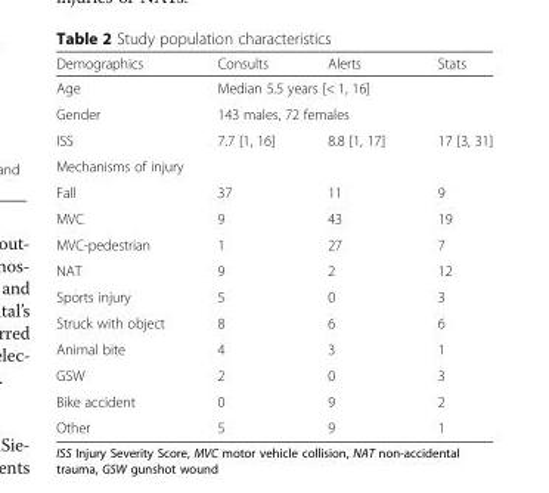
<table><thead><tr><td>Demographics</td><td>Consults</td><td>Alerts</td><td>Stats</td></tr></thead><tbody><tr><td>Age</td><td colspan="3">Median 5.5 years [&lt; 1, 16]</td></tr><tr><td>Gender</td><td colspan="3">143 males, 72 females</td></tr><tr><td>ISS</td><td>7.7 [1, 16]</td><td>8.8 [1, 17]</td><td>17 [3, 31]</td></tr><tr><td colspan="4">Mechanisms of injury</td></tr><tr><td>Fall</td><td>37</td><td>11</td><td>9</td></tr><tr><td>MVC</td><td>9</td><td>43</td><td>19</td></tr><tr><td>MVC-pedestrian</td><td>1</td><td>27</td><td>7</td></tr><tr><td>NAT</td><td>9</td><td>2</td><td>12</td></tr><tr><td>Sports injury</td><td>5</td><td>0</td><td>3</td></tr><tr><td>Struck with object</td><td>8</td><td>6</td><td>6</td></tr><tr><td>Animal bite</td><td>4</td><td>3</td><td>1</td></tr><tr><td>GSW</td><td>2</td><td>0</td><td>3</td></tr><tr><td>Bike accident</td><td>0</td><td>9</td><td>2</td></tr><tr><td>Other</td><td>5</td><td>9</td><td>1</td></tr></tbody></table>